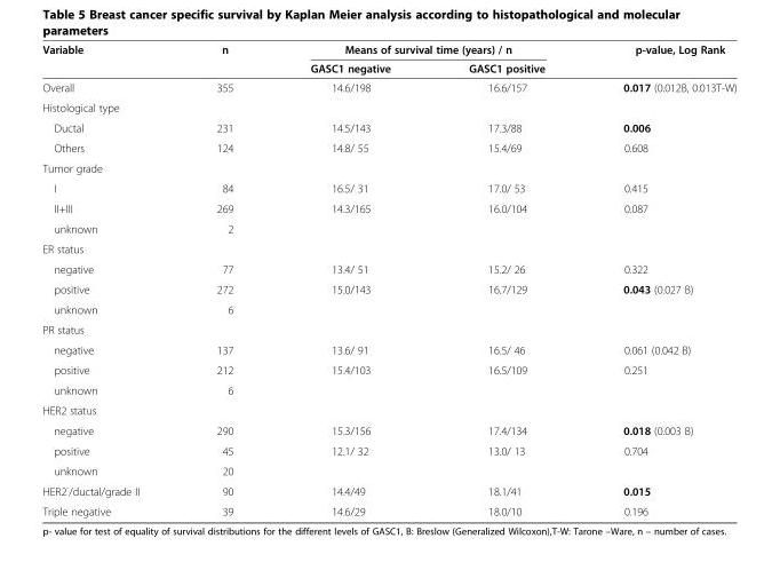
<table><thead><tr><td rowspan="2">Variable</td><td rowspan="2">n</td><td colspan="2">Means of survival time (years) / n</td><td rowspan="2">p-value, Log Rank</td></tr><tr><td>GASC1 negative</td><td>GASC1 positive</td></tr></thead><tbody><tr><td>Overall</td><td>355</td><td>14.6/198</td><td>16.6/157</td><td>0.017 (0.012B, 0.013T-W)</td></tr><tr><td colspan="5">Histological type</td></tr><tr><td>Ductal</td><td>231</td><td>14.5/143</td><td>17.3/88</td><td>0.006</td></tr><tr><td>Others</td><td>124</td><td>14.8/ 55</td><td>15.4/69</td><td>0.608</td></tr><tr><td colspan="5">Tumor grade</td></tr><tr><td>I</td><td>84</td><td>16.5/ 31</td><td>17.0/ 53</td><td>0.415</td></tr><tr><td>II+III</td><td>269</td><td>14.3/165</td><td>16.0/104</td><td>0.087</td></tr><tr><td>unknown</td><td>2</td><td></td><td></td><td></td></tr><tr><td colspan="5">ER status</td></tr><tr><td>negative</td><td>77</td><td>13.4/ 51</td><td>15.2/ 26</td><td>0.322</td></tr><tr><td>positive</td><td>272</td><td>15.0/143</td><td>16.7/129</td><td>0.043 (0.027 B)</td></tr><tr><td>unknown</td><td>6</td><td></td><td></td><td></td></tr><tr><td colspan="5">PR status</td></tr><tr><td>negative</td><td>137</td><td>13.6/ 91</td><td>16.5/ 46</td><td>0.061 (0.042 B)</td></tr><tr><td>positive</td><td>212</td><td>15.4/103</td><td>16.5/109</td><td>0.251</td></tr><tr><td>unknown</td><td>6</td><td></td><td></td><td></td></tr><tr><td colspan="5">HER2 status</td></tr><tr><td>negative</td><td>290</td><td>15.3/156</td><td>17.4/134</td><td>0.018 (0.003 B)</td></tr><tr><td>positive</td><td>45</td><td>12.1/ 32</td><td>13.0/ 13</td><td>0.704</td></tr><tr><td>unknown</td><td>20</td><td></td><td></td><td></td></tr><tr><td>HER2<sup>-</sup>/ductal/grade II</td><td>90</td><td>14.4/49</td><td>18.1/41</td><td>0.015</td></tr><tr><td>Triple negative</td><td>39</td><td>14.6/29</td><td>18.0/10</td><td>0.196</td></tr></tbody></table>